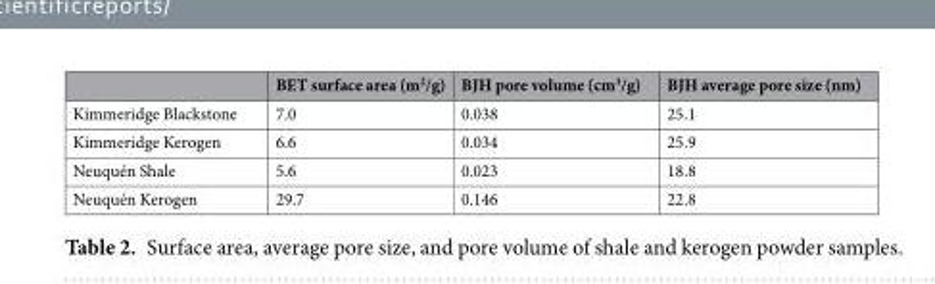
<table><thead><tr><td></td><td>BET surface area (m<sup>2</sup>/g)</td><td>BJH pore volume (cm<sup>3</sup>/g)</td><td>BJH average pore size (nm)</td></tr></thead><tbody><tr><td>Kimmeridge Blackstone</td><td>7.0</td><td>0.038</td><td>25.1</td></tr><tr><td>Kimmeridge Kerogen</td><td>6.6</td><td>0.034</td><td>25.9</td></tr><tr><td>Neuquén Shale</td><td>5.6</td><td>0.023</td><td>18.8</td></tr><tr><td>Neuquén Kerogen</td><td>29.7</td><td>0.146</td><td>22.8</td></tr></tbody></table>